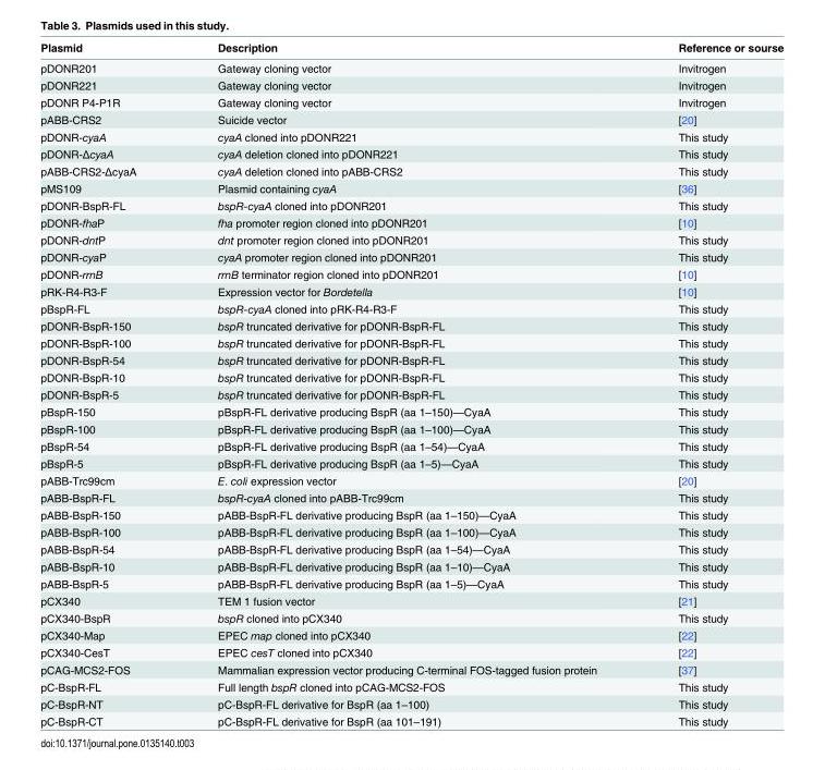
<table><thead><tr><td>Plasmid</td><td>Description</td><td>Reference or sourse</td></tr></thead><tbody><tr><td>pDONR201</td><td>Gateway cloning vector</td><td>Invitrogen</td></tr><tr><td>pDONR221</td><td>Gateway cloning vector</td><td>Invitrogen</td></tr><tr><td>pDONR P4-P1R</td><td>Gateway cloning vector</td><td>Invitrogen</td></tr><tr><td>pABB-CRS2</td><td>Suicide vector</td><td>[20]</td></tr><tr><td>pDONR-cyaA</td><td>cyaA cloned into pDONR221</td><td>This study</td></tr><tr><td>pDONR-ΔcyaA</td><td>cyaA deletion cloned into pDONR221</td><td>This study</td></tr><tr><td>pABB-CRS2-ΔcyaA</td><td>cyaA deletion cloned into pABB-CRS2</td><td>This study</td></tr><tr><td>pMS109</td><td>Plasmid containing cyaA</td><td>[36]</td></tr><tr><td>pDONR-BspR-FL</td><td>bspR-cyaA cloned into pDONR201</td><td>This study</td></tr><tr><td>pDONR-fhaP</td><td>fha promoter region cloned into pDONR201</td><td>[10]</td></tr><tr><td>pDONR-dntP</td><td>dnt promoter region cloned into pDONR201</td><td>This study</td></tr><tr><td>pDONR-cyaP</td><td>cyaA promoter region cloned into pDONR201</td><td>This study</td></tr><tr><td>pDONR-rrnB</td><td>rrnB terminator region cloned into pDONR201</td><td>[10]</td></tr><tr><td>pRK-R4-R3-F</td><td>Expression vector for Bordetella</td><td>[10]</td></tr><tr><td>pBspR-FL</td><td>bspR-cyaA cloned into pRK-R4-R3-F</td><td>This study</td></tr><tr><td>pDONR-BspR-150</td><td>bspR truncated derivative for pDONR-BspR-FL</td><td>This study</td></tr><tr><td>pDONR-BspR-100</td><td>bspR truncated derivative for pDONR-BspR-FL</td><td>This study</td></tr><tr><td>pDONR-BspR-54</td><td>bspR truncated derivative for pDONR-BspR-FL</td><td>This study</td></tr><tr><td>pDONR-BspR-10</td><td>bspR truncated derivative for pDONR-BspR-FL</td><td>This study</td></tr><tr><td>pDONR-BspR-5</td><td>bspR truncated derivative for pDONR-BspR-FL</td><td>This study</td></tr><tr><td>pBspR-150</td><td>pBspR-FL derivative producing BspR (aa 1–150)—CyaA</td><td>This study</td></tr><tr><td>pBspR-100</td><td>pBspR-FL derivative producing BspR (aa 1–100)—CyaA</td><td>This study</td></tr><tr><td>pBspR-54</td><td>pBspR-FL derivative producing BspR (aa 1–54)—CyaA</td><td>This study</td></tr><tr><td>pBspR-5</td><td>pBspR-FL derivative producing BspR (aa 1–5)—CyaA</td><td>This study</td></tr><tr><td>pABB-Trc99cm</td><td>E. coli expression vector</td><td>[20]</td></tr><tr><td>pABB-BspR-FL</td><td>bspR-cyaA cloned into pABB-Trc99cm</td><td>This study</td></tr><tr><td>pABB-BspR-150</td><td>pABB-BspR-FL derivative producing BspR (aa 1–150)—CyaA</td><td>This study</td></tr><tr><td>pABB-BspR-100</td><td>pABB-BspR-FL derivative producing BspR (aa 1–100)—CyaA</td><td>This study</td></tr><tr><td>pABB-BspR-54</td><td>pABB-BspR-FL derivative producing BspR (aa 1–54)—CyaA</td><td>This study</td></tr><tr><td>pABB-BspR-10</td><td>pABB-BspR-FL derivative producing BspR (aa 1–10)—CyaA</td><td>This study</td></tr><tr><td>pABB-BspR-5</td><td>pABB-BspR-FL derivative producing BspR (aa 1–5)—CyaA</td><td>This study</td></tr><tr><td>pCX340</td><td>TEM 1 fusion vector</td><td>[21]</td></tr><tr><td>pCX340-BspR</td><td>bspR cloned into pCX340</td><td>This study</td></tr><tr><td>pCX340-Map</td><td>EPEC map cloned into pCX340</td><td>[22]</td></tr><tr><td>pCX340-CesT</td><td>EPEC cesT cloned into pCX340</td><td>[22]</td></tr><tr><td>pCAG-MCS2-FOS</td><td>Mammalian expression vector producing C-terminal FOS-tagged fusion protein</td><td>[37]</td></tr><tr><td>pC-BspR-FL</td><td>Full length bspR cloned into pCAG-MCS2-FOS</td><td>This study</td></tr><tr><td>pC-BspR-NT</td><td>pC-BspR-FL derivative for BspR (aa 1–100)</td><td>This study</td></tr><tr><td>pC-BspR-CT</td><td>pC-BspR-FL derivative for BspR (aa 101–191)</td><td>This study</td></tr></tbody></table>